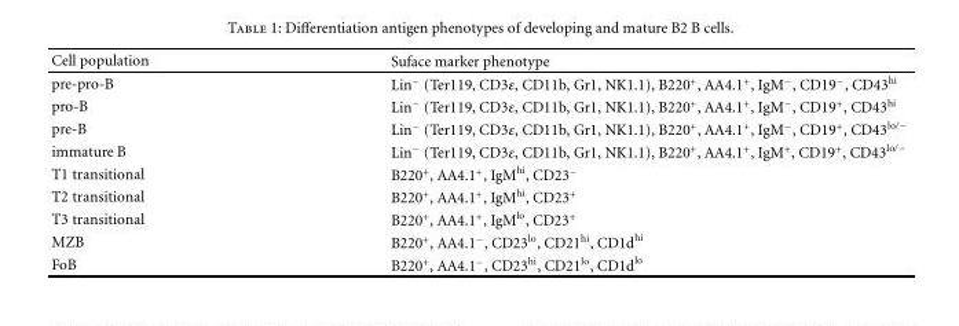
<table><thead><tr><td>Cell population</td><td>Suface marker phenotype</td></tr></thead><tbody><tr><td>pre-pro-B</td><td>Lin<sup>−</sup> (Ter119, CD3ε, CD11b, Gr1, NK1.1), B220<sup>+</sup>, AA4.1<sup>+</sup>, IgM<sup>−</sup>, CD19<sup>−</sup>, CD43<sup>hi</sup></td></tr><tr><td>pro-B</td><td>Lin<sup>−</sup> (Ter119, CD3ε, CD11b, Gr1, NK1.1), B220<sup>+</sup>, AA4.1<sup>+</sup>, IgM<sup>−</sup>, CD19<sup>+</sup>, CD43<sup>hi</sup></td></tr><tr><td>pre-B</td><td>Lin<sup>−</sup> (Ter119, CD3ε, CD11b, Gr1, NK1.1), B220<sup>+</sup>, AA4.1<sup>+</sup>, IgM<sup>−</sup>, CD19<sup>+</sup>, CD43<sup>lo/−</sup></td></tr><tr><td>immature B</td><td>Lin<sup>−</sup> (Ter119, CD3ε, CD11b, Gr1, NK1.1), B220<sup>+</sup>, AA4.1<sup>+</sup>, IgM<sup>+</sup>, CD19<sup>+</sup>, CD43<sup>lo/−</sup></td></tr><tr><td>T1 transitional</td><td>B220<sup>+</sup>, AA4.1<sup>+</sup>, IgM<sup>hi</sup>, CD23<sup>−</sup></td></tr><tr><td>T2 transitional</td><td>B220<sup>+</sup>, AA4.1<sup>+</sup>, IgM<sup>hi</sup>, CD23<sup>+</sup></td></tr><tr><td>T3 transitional</td><td>B220<sup>+</sup>, AA4.1<sup>+</sup>, IgM<sup>lo</sup>, CD23<sup>+</sup></td></tr><tr><td>MZB</td><td>B220<sup>+</sup>, AA4.1<sup>−</sup>, CD23<sup>lo</sup>, CD21<sup>hi</sup>, CD1d<sup>hi</sup></td></tr><tr><td>FoB</td><td>B220<sup>+</sup>, AA4.1<sup>−</sup>, CD23<sup>hi</sup>, CD21<sup>lo</sup>, CD1d<sup>lo</sup></td></tr></tbody></table>